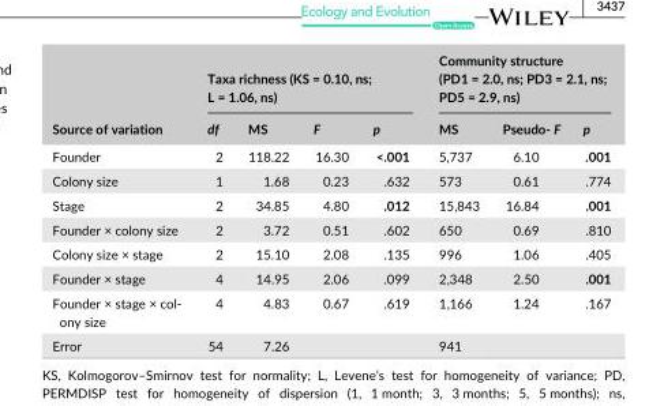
<table><thead><tr><td rowspan="2">Source of variation</td><td colspan="4">Taxa richness (KS = 0.10, ns; L = 1.06, ns)</td><td colspan="3">Community structure (PD1 = 2.0, ns; PD3 = 2.1, ns; PD5 = 2.9, ns)</td></tr><tr><td>df</td><td>MS</td><td>F</td><td>p</td><td>MS</td><td>Pseudo- F</td><td>p</td></tr></thead><tbody><tr><td>Founder</td><td>2</td><td>118.22</td><td>16.30</td><td>&lt;.001</td><td>5,737</td><td>6.10</td><td>.001</td></tr><tr><td>Colony size</td><td>1</td><td>1.68</td><td>0.23</td><td>.632</td><td>573</td><td>0.61</td><td>.774</td></tr><tr><td>Stage</td><td>2</td><td>34.85</td><td>4.80</td><td>.012</td><td>15,843</td><td>16.84</td><td>.001</td></tr><tr><td>Founder × colony size</td><td>2</td><td>3.72</td><td>0.51</td><td>.602</td><td>650</td><td>0.69</td><td>.810</td></tr><tr><td>Colony size × stage</td><td>2</td><td>15.10</td><td>2.08</td><td>.135</td><td>996</td><td>1.06</td><td>.405</td></tr><tr><td>Founder × stage</td><td>4</td><td>14.95</td><td>2.06</td><td>.099</td><td>2,348</td><td>2.50</td><td>.001</td></tr><tr><td>Founder × stage × col- ony size</td><td>4</td><td>4.83</td><td>0.67</td><td>.619</td><td>1,166</td><td>1.24</td><td>.167</td></tr><tr><td>Error</td><td>54</td><td>7.26</td><td></td><td></td><td>941</td><td></td><td></td></tr></tbody></table>